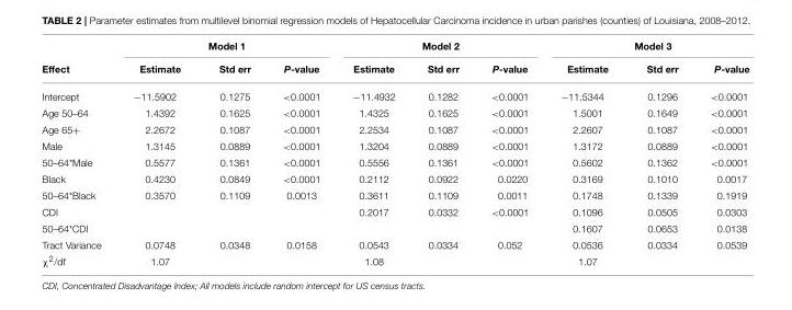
<table><thead><tr><td rowspan="2">Effect</td><td colspan="3">Model 1</td><td colspan="3">Model 2</td><td colspan="3">Model 3</td></tr><tr><td>Estimate</td><td>Std err</td><td>P-value</td><td>Estimate</td><td>Std err</td><td>P-value</td><td>Estimate</td><td>Std err</td><td>P-value</td></tr></thead><tbody><tr><td>Intercept</td><td>−11.5902</td><td>0.1275</td><td>&lt;0.0001</td><td>−11.4932</td><td>0.1282</td><td>&lt;0.0001</td><td>−11.5344</td><td>0.1296</td><td>&lt;0.0001</td></tr><tr><td>Age 50–64</td><td>1.4392</td><td>0.1625</td><td>&lt;0.0001</td><td>1.4325</td><td>0.1625</td><td>&lt;0.0001</td><td>1.5001</td><td>0.1649</td><td>&lt;0.0001</td></tr><tr><td>Age 65+</td><td>2.2672</td><td>0.1087</td><td>&lt;0.0001</td><td>2.2534</td><td>0.1087</td><td>&lt;0.0001</td><td>2.2607</td><td>0.1087</td><td>&lt;0.0001</td></tr><tr><td>Male</td><td>1.3145</td><td>0.0889</td><td>&lt;0.0001</td><td>1.3204</td><td>0.0889</td><td>&lt;0.0001</td><td>1.3172</td><td>0.0889</td><td>&lt;0.0001</td></tr><tr><td>50–64*Male</td><td>0.5577</td><td>0.1361</td><td>&lt;0.0001</td><td>0.5556</td><td>0.1361</td><td>&lt;0.0001</td><td>0.5602</td><td>0.1362</td><td>&lt;0.0001</td></tr><tr><td>Black</td><td>0.4230</td><td>0.0849</td><td>&lt;0.0001</td><td>0.2112</td><td>0.0922</td><td>0.0220</td><td>0.3169</td><td>0.1010</td><td>0.0017</td></tr><tr><td>50–64*Black</td><td>0.3570</td><td>0.1109</td><td>0.0013</td><td>0.3611</td><td>0.1109</td><td>0.0011</td><td>0.1748</td><td>0.1339</td><td>0.1919</td></tr><tr><td>CDI</td><td></td><td></td><td></td><td>0.2017</td><td>0.0332</td><td>&lt;0.0001</td><td>0.1096</td><td>0.0505</td><td>0.0303</td></tr><tr><td>50–64*CDI</td><td></td><td></td><td></td><td></td><td></td><td></td><td>0.1607</td><td>0.0653</td><td>0.0138</td></tr><tr><td>Tract Variance</td><td>0.0748</td><td>0.0348</td><td>0.0158</td><td>0.0543</td><td>0.0334</td><td>0.052</td><td>0.0536</td><td>0.0334</td><td>0.0539</td></tr><tr><td>χ<sup>2</sup>/df</td><td>1.07</td><td></td><td></td><td>1.08</td><td></td><td></td><td>1.07</td><td></td><td></td></tr></tbody></table>